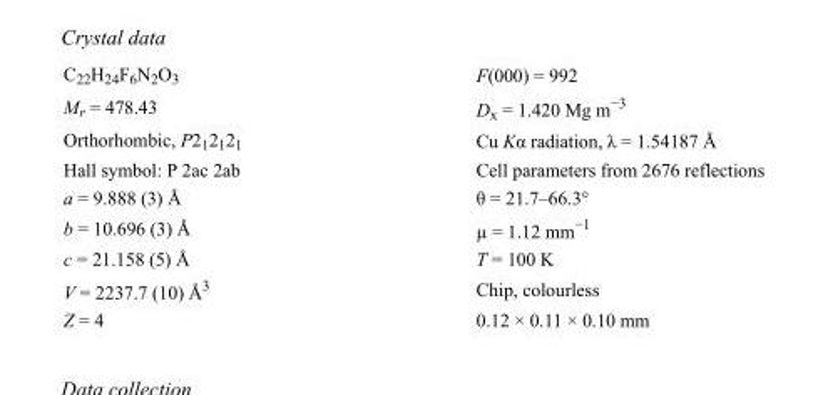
<table><tbody><tr><td>C<sub>22</sub>H<sub>24</sub>F<sub>6</sub>N<sub>2</sub>O<sub>3</sub></td><td>F(000) = 992</td></tr><tr><td>M<sub>r</sub> = 478.43</td><td>D<sub>x</sub> = 1.420 Mg m<sup>−3</sup></td></tr><tr><td>Orthorhombic, P2<sub>1</sub>2<sub>1</sub>2<sub>1</sub></td><td>Cu Kα radiation, λ = 1.54187 Å</td></tr><tr><td>Hall symbol: P 2ac 2ab</td><td>Cell parameters from 2676 reflections</td></tr><tr><td>a = 9.888 (3) Å</td><td>θ = 21.7–66.3°</td></tr><tr><td>b = 10.696 (3) Å</td><td>µ = 1.12 mm<sup>−1</sup></td></tr><tr><td>c = 21.158 (5) Å</td><td>T = 100 K</td></tr><tr><td>V = 2237.7 (10) Å<sup>3</sup></td><td>Chip, colourless</td></tr><tr><td>Z = 4</td><td>0.12 × 0.11 × 0.10 mm</td></tr></tbody></table>